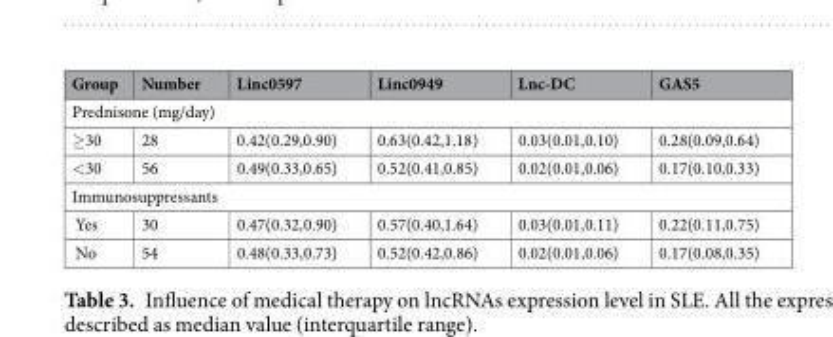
<table><thead><tr><td>Group</td><td>Number</td><td>Linc0597</td><td>Linc0949</td><td>Lnc-DC</td><td>GAS5</td></tr></thead><tbody><tr><td colspan="6">Prednisone (mg/day)</td></tr><tr><td>≥30</td><td>28</td><td>0.42(0.29,0.90)</td><td>0.63(0.42,1.18)</td><td>0.03(0.01,0.10)</td><td>0.28(0.09,0.64)</td></tr><tr><td>&lt;30</td><td>56</td><td>0.49(0.33,0.65)</td><td>0.52(0.41,0.85)</td><td>0.02(0.01,0.06)</td><td>0.17(0.10,0.33)</td></tr><tr><td colspan="6">Immunosuppressants</td></tr><tr><td>Yes</td><td>30</td><td>0.47(0.32,0.90)</td><td>0.57(0.40,1.64)</td><td>0.03(0.01,0.11)</td><td>0.22(0.11,0.75)</td></tr><tr><td>No</td><td>54</td><td>0.48(0.33,0.73)</td><td>0.52(0.42,0.86)</td><td>0.02(0.01,0.06)</td><td>0.17(0.08,0.35)</td></tr></tbody></table>